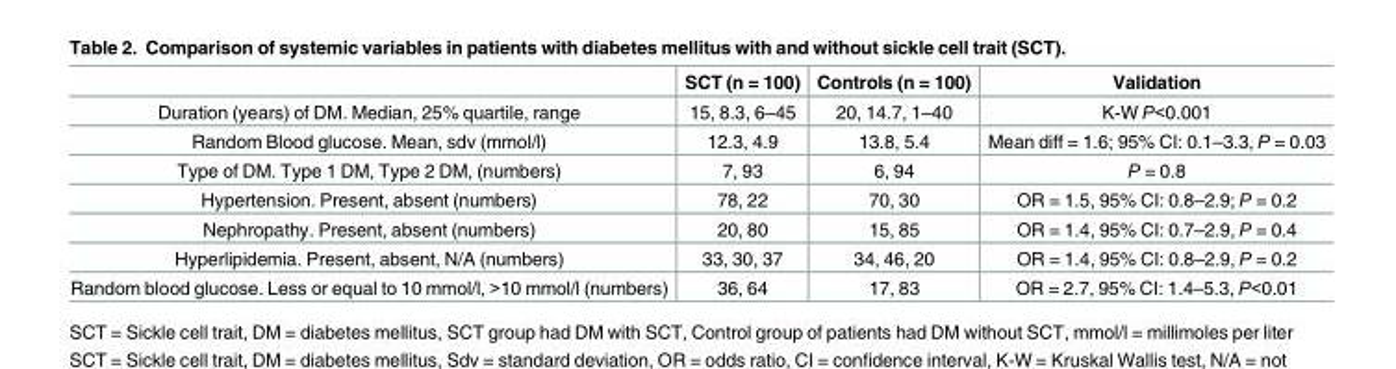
<table><thead><tr><td></td><td>SCT (n = 100)</td><td>Controls (n = 100)</td><td>Validation</td></tr></thead><tbody><tr><td>Duration (years) of DM. Median, 25% quartile, range</td><td>15, 8.3, 6–45</td><td>20, 14.7, 1–40</td><td>K-W P&lt;0.001</td></tr><tr><td>Random Blood glucose. Mean, sdv (mmol/l)</td><td>12.3, 4.9</td><td>13.8, 5.4</td><td>Mean diff = 1.6; 95% CI: 0.1–3.3, P = 0.03</td></tr><tr><td>Type of DM. Type 1 DM, Type 2 DM, (numbers)</td><td>7, 93</td><td>6, 94</td><td>P = 0.8</td></tr><tr><td>Hypertension. Present, absent (numbers)</td><td>78, 22</td><td>70, 30</td><td>OR = 1.5, 95% CI: 0.8–2.9; P = 0.2</td></tr><tr><td>Nephropathy. Present, absent (numbers)</td><td>20, 80</td><td>15, 85</td><td>OR = 1.4, 95% CI: 0.7–2.9, P = 0.4</td></tr><tr><td>Hyperlipidemia. Present, absent, N/A (numbers)</td><td>33, 30, 37</td><td>34, 46, 20</td><td>OR = 1.4, 95% CI: 0.8–2.9, P = 0.2</td></tr><tr><td>Random blood glucose. Less or equal to 10 mmol/l, &gt;10 mmol/l (numbers)</td><td>36, 64</td><td>17, 83</td><td>OR = 2.7, 95% CI: 1.4–5.3, P&lt;0.01</td></tr></tbody></table>